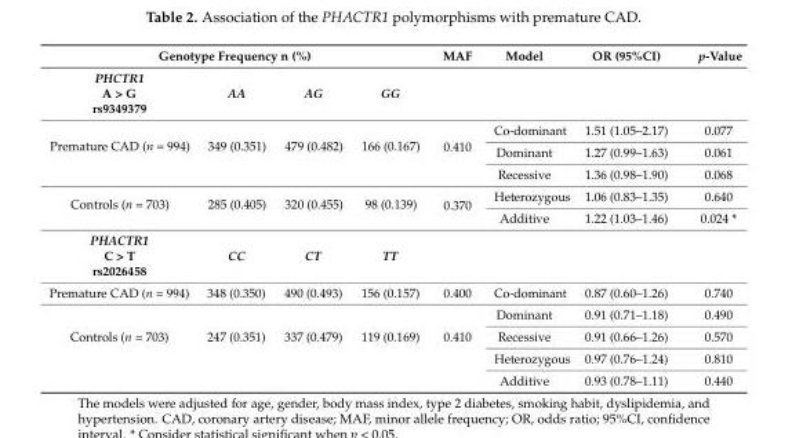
<table><thead><tr><td colspan="4">Genotype Frequency n (%)</td><td rowspan="2">MAF</td><td rowspan="2">Model</td><td rowspan="2">OR (95%CI)</td><td rowspan="2">p-Value</td></tr><tr><td>PHCTR1 A &gt; G rs9349379</td><td>AA</td><td>AG</td><td>GG</td></tr></thead><tbody><tr><td rowspan="3">Premature CAD (n = 994)</td><td rowspan="3">349 (0.351)</td><td rowspan="3">479 (0.482)</td><td rowspan="3">166 (0.167)</td><td rowspan="3">0.410</td><td>Co-dominant</td><td>1.51 (1.05–2.17)</td><td>0.077</td></tr><tr><td>Dominant</td><td>1.27 (0.99–1.63)</td><td>0.061</td></tr><tr><td>Recessive</td><td>1.36 (0.98–1.90)</td><td>0.068</td></tr><tr><td rowspan="2">Controls (n = 703)</td><td rowspan="2">285 (0.405)</td><td rowspan="2">320 (0.455)</td><td rowspan="2">98 (0.139)</td><td rowspan="2">0.370</td><td>Heterozygous</td><td>1.06 (0.83–1.35)</td><td>0.640</td></tr><tr><td>Additive</td><td>1.22 (1.03–1.46)</td><td>0.024 *</td></tr><tr><td>PHACTR1 C &gt; T rs2026458</td><td>CC</td><td>CT</td><td>TT</td><td></td><td></td><td></td><td></td></tr><tr><td rowspan="2">Premature CAD (n = 994)</td><td>348 (0.350)</td><td>490 (0.493)</td><td>156 (0.157)</td><td>0.400</td><td>Co-dominant</td><td>0.87 (0.60–1.26)</td><td>0.740</td></tr><tr><td></td><td></td><td></td><td></td><td>Dominant</td><td>0.91 (0.71–1.18)</td><td>0.490</td></tr><tr><td rowspan="3">Controls (n = 703)</td><td>247 (0.351)</td><td>337 (0.479)</td><td>119 (0.169)</td><td>0.410</td><td>Recessive</td><td>0.91 (0.66–1.26)</td><td>0.570</td></tr><tr><td rowspan="2"></td><td rowspan="2"></td><td rowspan="2"></td><td rowspan="2"></td><td>Heterozygous</td><td>0.97 (0.76–1.24)</td><td>0.810</td></tr><tr><td>Additive</td><td>0.93 (0.78–1.11)</td><td>0.440</td></tr></tbody></table>